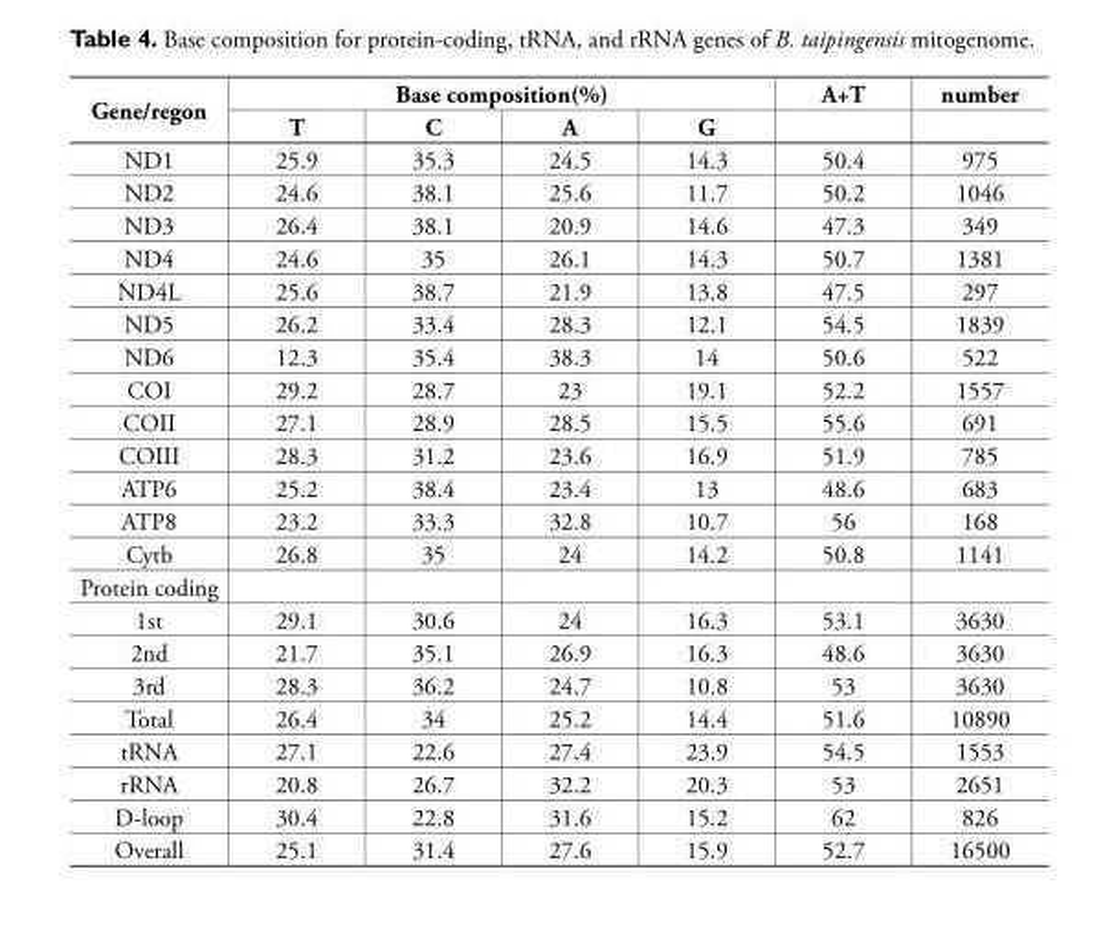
<table><thead><tr><td rowspan="2">Gene/regon</td><td colspan="4">Base composition(%)</td><td rowspan="2">A+T</td><td rowspan="2">number</td></tr><tr><td>T</td><td>C</td><td>A</td><td>G</td></tr></thead><tbody><tr><td>ND1</td><td>25.9</td><td>35.3</td><td>24.5</td><td>14.3</td><td>50.4</td><td>975</td></tr><tr><td>ND2</td><td>24.6</td><td>38.1</td><td>25.6</td><td>11.7</td><td>50.2</td><td>1046</td></tr><tr><td>ND3</td><td>26.4</td><td>38.1</td><td>20.9</td><td>14.6</td><td>47.3</td><td>349</td></tr><tr><td>ND4</td><td>24.6</td><td>35</td><td>26.1</td><td>14.3</td><td>50.7</td><td>1381</td></tr><tr><td>ND4L</td><td>25.6</td><td>38.7</td><td>21.9</td><td>13.8</td><td>47.5</td><td>297</td></tr><tr><td>ND5</td><td>26.2</td><td>33.4</td><td>28.3</td><td>12.1</td><td>54.5</td><td>1839</td></tr><tr><td>ND6</td><td>12.3</td><td>35.4</td><td>38.3</td><td>14</td><td>50.6</td><td>522</td></tr><tr><td>COI</td><td>29.2</td><td>28.7</td><td>23</td><td>19.1</td><td>52.2</td><td>1557</td></tr><tr><td>COII</td><td>27.1</td><td>28.9</td><td>28.5</td><td>15.5</td><td>55.6</td><td>691</td></tr><tr><td>COIII</td><td>28.3</td><td>31.2</td><td>23.6</td><td>16.9</td><td>51.9</td><td>785</td></tr><tr><td>ATP6</td><td>25.2</td><td>38.4</td><td>23.4</td><td>13</td><td>48.6</td><td>683</td></tr><tr><td>ATP8</td><td>23.2</td><td>33.3</td><td>32.8</td><td>10.7</td><td>56</td><td>168</td></tr><tr><td>Cytb</td><td>26.8</td><td>35</td><td>24</td><td>14.2</td><td>50.8</td><td>1141</td></tr><tr><td colspan="7">Protein coding</td></tr><tr><td>1st</td><td>29.1</td><td>30.6</td><td>24</td><td>16.3</td><td>53.1</td><td>3630</td></tr><tr><td>2nd</td><td>21.7</td><td>35.1</td><td>26.9</td><td>16.3</td><td>48.6</td><td>3630</td></tr><tr><td>3rd</td><td>28.3</td><td>36.2</td><td>24.7</td><td>10.8</td><td>53</td><td>3630</td></tr><tr><td>Total</td><td>26.4</td><td>34</td><td>25.2</td><td>14.4</td><td>51.6</td><td>10890</td></tr><tr><td>tRNA</td><td>27.1</td><td>22.6</td><td>27.4</td><td>23.9</td><td>54.5</td><td>1553</td></tr><tr><td>rRNA</td><td>20.8</td><td>26.7</td><td>32.2</td><td>20.3</td><td>53</td><td>2651</td></tr><tr><td>D-loop</td><td>30.4</td><td>22.8</td><td>31.6</td><td>15.2</td><td>62</td><td>826</td></tr><tr><td>Overall</td><td>25.1</td><td>31.4</td><td>27.6</td><td>15.9</td><td>52.7</td><td>16500</td></tr></tbody></table>